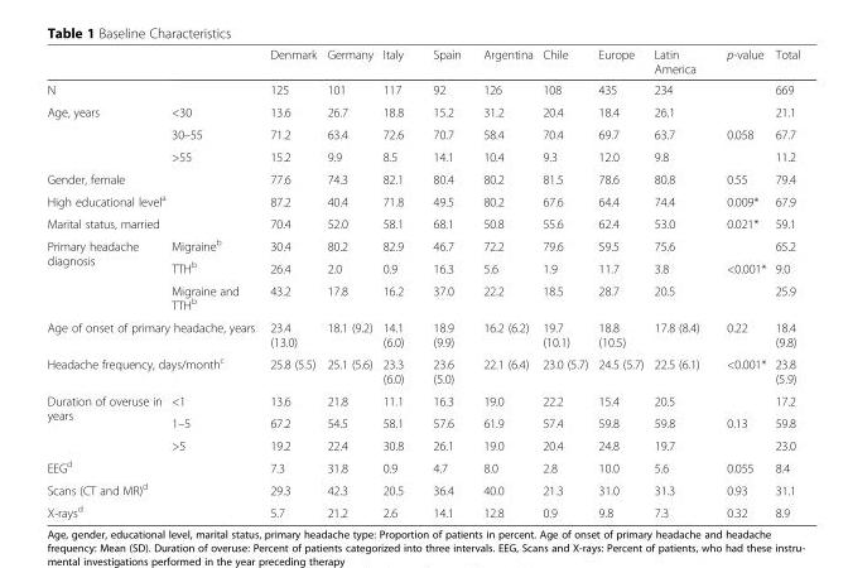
<table><thead><tr><td></td><td></td><td>Denmark</td><td>Germany</td><td>Italy</td><td>Spain</td><td>Argentina</td><td>Chile</td><td>Europe</td><td>Latin America</td><td>p-value</td><td>Total</td></tr></thead><tbody><tr><td colspan="2">N</td><td>125</td><td>101</td><td>117</td><td>92</td><td>126</td><td>108</td><td>435</td><td>234</td><td></td><td>669</td></tr><tr><td rowspan="3">Age, years</td><td>&lt;30</td><td>13.6</td><td>26.7</td><td>18.8</td><td>15.2</td><td>31.2</td><td>20.4</td><td>18.4</td><td>26.1</td><td></td><td>21.1</td></tr><tr><td>30–55</td><td>71.2</td><td>63.4</td><td>72.6</td><td>70.7</td><td>58.4</td><td>70.4</td><td>69.7</td><td>63.7</td><td>0.058</td><td>67.7</td></tr><tr><td>&gt;55</td><td>15.2</td><td>9.9</td><td>8.5</td><td>14.1</td><td>10.4</td><td>9.3</td><td>12.0</td><td>9.8</td><td></td><td>11.2</td></tr><tr><td colspan="2">Gender, female</td><td>77.6</td><td>74.3</td><td>82.1</td><td>80.4</td><td>80.2</td><td>81.5</td><td>78.6</td><td>80.8</td><td>0.55</td><td>79.4</td></tr><tr><td colspan="2">High educational level<sup>a</sup></td><td>87.2</td><td>40.4</td><td>71.8</td><td>49.5</td><td>80.2</td><td>67.6</td><td>64.4</td><td>74.4</td><td>0.009*</td><td>67.9</td></tr><tr><td colspan="2">Marital status, married</td><td>70.4</td><td>52.0</td><td>58.1</td><td>68.1</td><td>50.8</td><td>55.6</td><td>62.4</td><td>53.0</td><td>0.021*</td><td>59.1</td></tr><tr><td rowspan="3">Primary headache diagnosis</td><td>Migraine<sup>b</sup></td><td>30.4</td><td>80.2</td><td>82.9</td><td>46.7</td><td>72.2</td><td>79.6</td><td>59.5</td><td>75.6</td><td></td><td>65.2</td></tr><tr><td>TTH<sup>b</sup></td><td>26.4</td><td>2.0</td><td>0.9</td><td>16.3</td><td>5.6</td><td>1.9</td><td>11.7</td><td>3.8</td><td>&lt;0.001*</td><td>9.0</td></tr><tr><td>Migraine and TTH<sup>b</sup></td><td>43.2</td><td>17.8</td><td>16.2</td><td>37.0</td><td>22.2</td><td>18.5</td><td>28.7</td><td>20.5</td><td></td><td>25.9</td></tr><tr><td colspan="2">Age of onset of primary headache, years</td><td>23.4 (13.0)</td><td>18.1 (9.2)</td><td>14.1 (6.0)</td><td>18.9 (9.9)</td><td>16.2 (6.2)</td><td>19.7 (10.1)</td><td>18.8 (10.5)</td><td>17.8 (8.4)</td><td>0.22</td><td>18.4 (9.8)</td></tr><tr><td colspan="2">Headache frequency, days/month<sup>c</sup></td><td>25.8 (5.5)</td><td>25.1 (5.6)</td><td>23.3 (6.0)</td><td>23.6 (5.0)</td><td>22.1 (6.4)</td><td>23.0 (5.7)</td><td>24.5 (5.7)</td><td>22.5 (6.1)</td><td>&lt;0.001*</td><td>23.8 (5.9)</td></tr><tr><td rowspan="3">Duration of overuse in years</td><td>&lt;1</td><td>13.6</td><td>21.8</td><td>11.1</td><td>16.3</td><td>19.0</td><td>22.2</td><td>15.4</td><td>20.5</td><td></td><td>17.2</td></tr><tr><td>1–5</td><td>67.2</td><td>54.5</td><td>58.1</td><td>57.6</td><td>61.9</td><td>57.4</td><td>59.8</td><td>59.8</td><td>0.13</td><td>59.8</td></tr><tr><td>&gt;5</td><td>19.2</td><td>22.4</td><td>30.8</td><td>26.1</td><td>19.0</td><td>20.4</td><td>24.8</td><td>19.7</td><td></td><td>23.0</td></tr><tr><td colspan="2">EEG<sup>d</sup></td><td>7.3</td><td>31.8</td><td>0.9</td><td>4.7</td><td>8.0</td><td>2.8</td><td>10.0</td><td>5.6</td><td>0.055</td><td>8.4</td></tr><tr><td colspan="2">Scans (CT and MR)<sup>d</sup></td><td>29.3</td><td>42.3</td><td>20.5</td><td>36.4</td><td>40.0</td><td>21.3</td><td>31.0</td><td>31.3</td><td>0.93</td><td>31.1</td></tr><tr><td colspan="2">X-rays<sup>d</sup></td><td>5.7</td><td>21.2</td><td>2.6</td><td>14.1</td><td>12.8</td><td>0.9</td><td>9.8</td><td>7.3</td><td>0.32</td><td>8.9</td></tr></tbody></table>